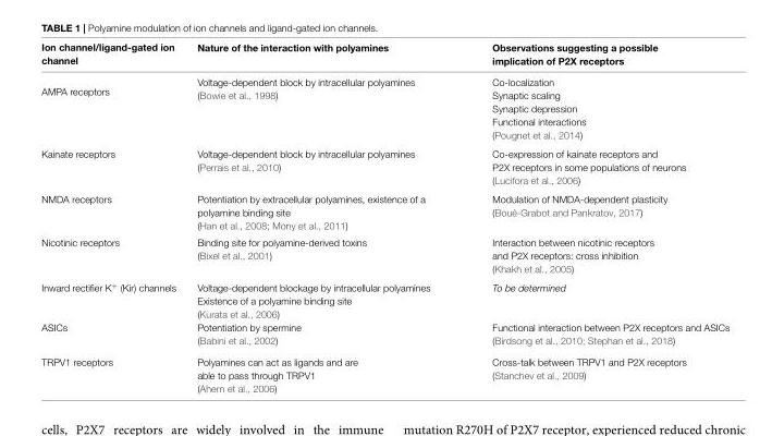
<table><thead><tr><td>Ion channel/ligand-gated ion channel</td><td>Nature of the interaction with polyamines</td><td>Observations suggesting a possible implication of P2X receptors</td></tr></thead><tbody><tr><td>AMPA receptors</td><td>Voltage-dependent block by intracellular polyamines (Bowie et al., 1998)</td><td>Co-localization Synaptic scaling Synaptic depression Functional interactions (Pougnet et al., 2014)</td></tr><tr><td>Kainate receptors</td><td>Voltage-dependent block by intracellular polyamines (Perrais et al., 2010)</td><td>Co-expression of kainate receptors and P2X receptors in some populations of neurons (Lucifora et al., 2006)</td></tr><tr><td>NMDA receptors</td><td>Potentiation by extracellular polyamines, existence of a polyamine binding site (Han et al., 2008; Mony et al., 2011)</td><td>Modulation of NMDA-dependent plasticity (Boué-Grabot and Pankratov, 2017)</td></tr><tr><td>Nicotinic receptors</td><td>Binding site for polyamine-derived toxins (Bixel et al., 2001)</td><td>Interaction between nicotinic receptors and P2X receptors: cross inhibition (Khakh et al., 2005)</td></tr><tr><td>Inward rectifier K<sup>+</sup> (Kir) channels</td><td>Voltage-dependent blockage by intracellular polyamines Existence of a polyamine binding site (Kurata et al., 2006)</td><td>To be determined</td></tr><tr><td>ASICs</td><td>Potentiation by spermine (Babini et al., 2002)</td><td>Functional interaction between P2X receptors and ASICs (Birdsong et al., 2010; Stephan et al., 2018)</td></tr><tr><td>TRPV1 receptors</td><td>Polyamines can act as ligands and are able to pass through TRPV1 (Ahern et al., 2006)</td><td>Cross-talk between TRPV1 and P2X receptors (Stanchev et al., 2009)</td></tr></tbody></table>